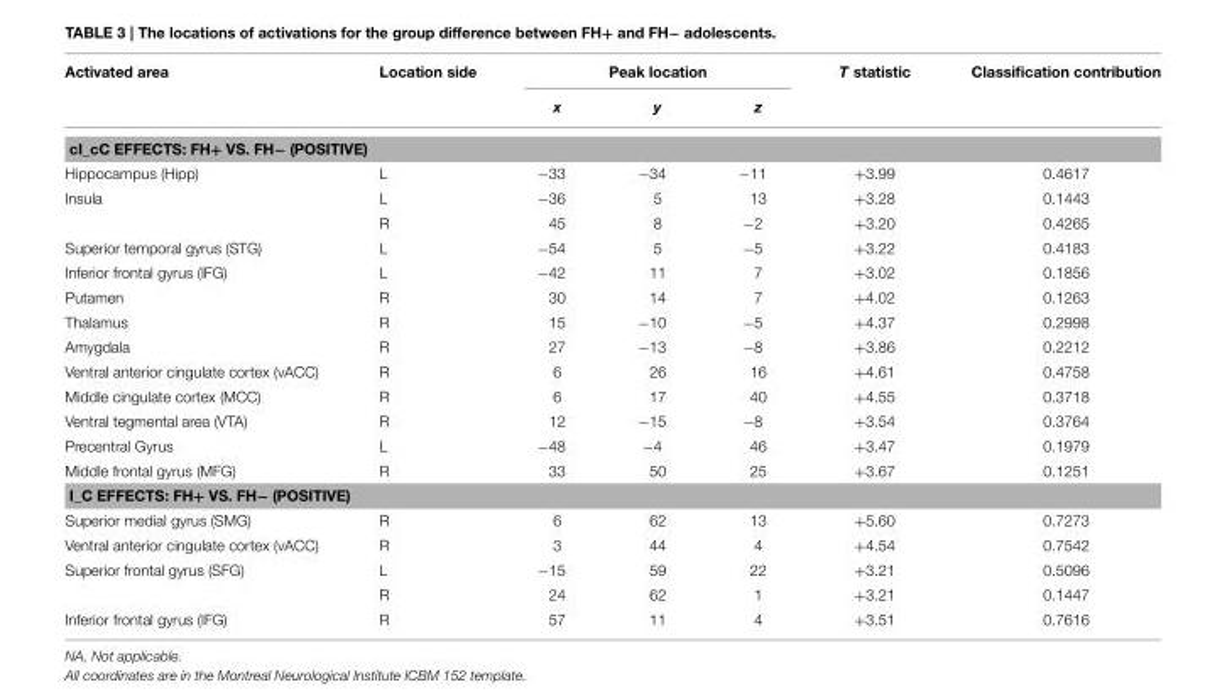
<table><thead><tr><td rowspan="2">Activated area</td><td rowspan="2">Location side</td><td colspan="3">Peak location</td><td rowspan="2">T statistic</td><td rowspan="2">Classification contribution</td></tr><tr><td>x</td><td>y</td><td>z</td></tr></thead><tbody><tr><td colspan="7">cI_cC EFFECTS: FH+ VS. FH− (POSITIVE)</td></tr><tr><td>Hippocampus (Hipp)</td><td>L</td><td>−33</td><td>−34</td><td>−11</td><td>+3.99</td><td>0.4617</td></tr><tr><td rowspan="2">Insula</td><td>L</td><td>−36</td><td>5</td><td>13</td><td>+3.28</td><td>0.1443</td></tr><tr><td>R</td><td>45</td><td>8</td><td>−2</td><td>+3.20</td><td>0.4265</td></tr><tr><td>Superior temporal gyrus (STG)</td><td>L</td><td>−54</td><td>5</td><td>−5</td><td>+3.22</td><td>0.4183</td></tr><tr><td>Inferior frontal gyrus (IFG)</td><td>L</td><td>−42</td><td>11</td><td>7</td><td>+3.02</td><td>0.1856</td></tr><tr><td>Putamen</td><td>R</td><td>30</td><td>14</td><td>7</td><td>+4.02</td><td>0.1263</td></tr><tr><td>Thalamus</td><td>R</td><td>15</td><td>−10</td><td>−5</td><td>+4.37</td><td>0.2998</td></tr><tr><td>Amygdala</td><td>R</td><td>27</td><td>−13</td><td>−8</td><td>+3.86</td><td>0.2212</td></tr><tr><td>Ventral anterior cingulate cortex (vACC)</td><td>R</td><td>6</td><td>26</td><td>16</td><td>+4.61</td><td>0.4758</td></tr><tr><td>Middle cingulate cortex (MCC)</td><td>R</td><td>6</td><td>17</td><td>40</td><td>+4.55</td><td>0.3718</td></tr><tr><td>Ventral tegmental area (VTA)</td><td>R</td><td>12</td><td>−15</td><td>−8</td><td>+3.54</td><td>0.3764</td></tr><tr><td>Precentral Gyrus</td><td>L</td><td>−48</td><td>−4</td><td>46</td><td>+3.47</td><td>0.1979</td></tr><tr><td>Middle frontal gyrus (MFG)</td><td>R</td><td>33</td><td>50</td><td>25</td><td>+3.67</td><td>0.1251</td></tr><tr><td colspan="7">I_C EFFECTS: FH+ VS. FH− (POSITIVE)</td></tr><tr><td>Superior medial gyrus (SMG)</td><td>R</td><td>6</td><td>62</td><td>13</td><td>+5.60</td><td>0.7273</td></tr><tr><td>Ventral anterior cingulate cortex (vACC)</td><td>R</td><td>3</td><td>44</td><td>4</td><td>+4.54</td><td>0.7542</td></tr><tr><td rowspan="2">Superior frontal gyrus (SFG)</td><td>L</td><td>−15</td><td>59</td><td>22</td><td>+3.21</td><td>0.5096</td></tr><tr><td>R</td><td>24</td><td>62</td><td>1</td><td>+3.21</td><td>0.1447</td></tr><tr><td>Inferior frontal gyrus (IFG)</td><td>R</td><td>57</td><td>11</td><td>4</td><td>+3.51</td><td>0.7616</td></tr></tbody></table>